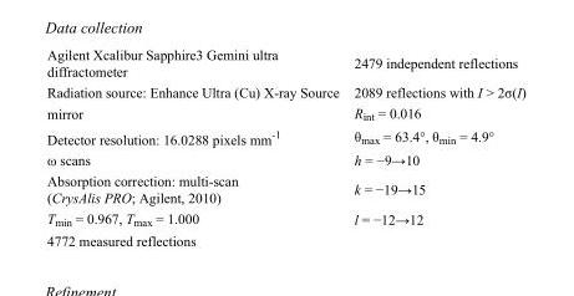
<table><tbody><tr><td>Agilent Xcalibur Sapphire3 Gemini ultra diffractometer</td><td>2479 independent reflections</td></tr><tr><td>Radiation source: Enhance Ultra (Cu) X-ray Source</td><td>2089 reflections with I &gt; 2σ(I)</td></tr><tr><td>mirror</td><td>R<sub>int</sub> = 0.016</td></tr><tr><td>Detector resolution: 16.0288 pixels mm<sup>-1</sup></td><td>θ<sub>max</sub> = 63.4°, θ<sub>min</sub> = 4.9°</td></tr><tr><td>ω scans</td><td>h = −9→10</td></tr><tr><td>Absorption correction: multi-scan (CrysAlis PRO; Agilent, 2010)</td><td>k = −19→15</td></tr><tr><td>T<sub>min</sub> = 0.967, T<sub>max</sub> = 1.000</td><td>l = −12→12</td></tr><tr><td>4772 measured reflections</td><td></td></tr></tbody></table>